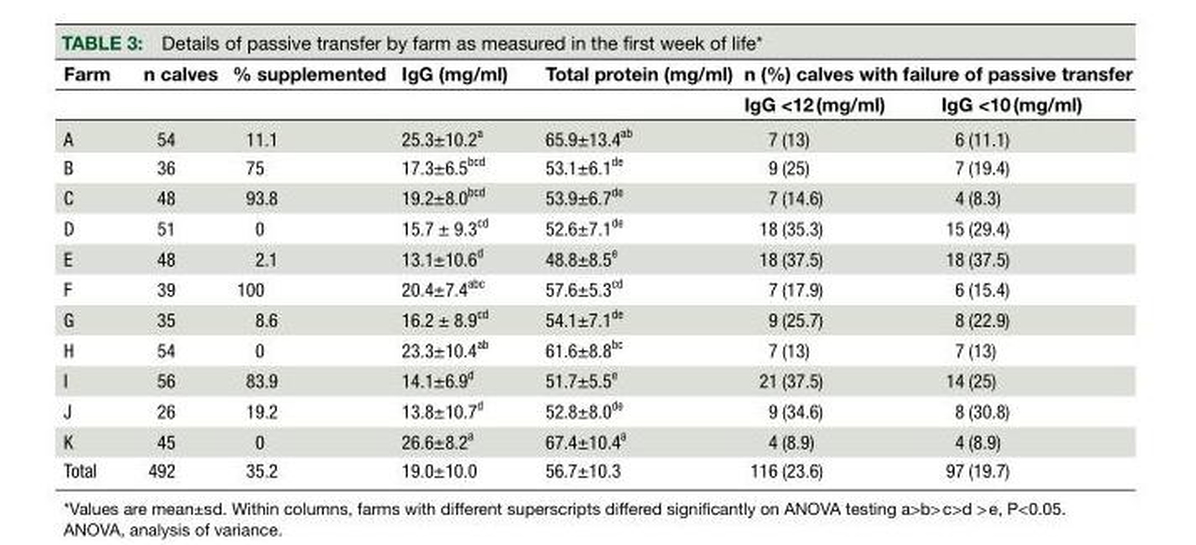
<table><thead><tr><td rowspan="2">Farm</td><td rowspan="2">n calves</td><td rowspan="2">% supplemented</td><td rowspan="2">IgG (mg/ml)</td><td rowspan="2">Total protein (mg/ml)</td><td colspan="2">n (%) calves with failure of passive transfer</td></tr><tr><td>IgG &lt;12 (mg/ml)</td><td>IgG &lt;10 (mg/ml)</td></tr></thead><tbody><tr><td>A</td><td>54</td><td>11.1</td><td>25.3±10.2<sup>a</sup></td><td>65.9±13.4<sup>ab</sup></td><td>7 (13)</td><td>6 (11.1)</td></tr><tr><td>B</td><td>36</td><td>75</td><td>17.3±6.5<sup>bcd</sup></td><td>53.1±6.1<sup>de</sup></td><td>9 (25)</td><td>7 (19.4)</td></tr><tr><td>C</td><td>48</td><td>93.8</td><td>19.2±8.0<sup>bcd</sup></td><td>53.9±6.7<sup>de</sup></td><td>7 (14.6)</td><td>4 (8.3)</td></tr><tr><td>D</td><td>51</td><td>0</td><td>15.7 ± 9.3<sup>cd</sup></td><td>52.6±7.1<sup>de</sup></td><td>18 (35.3)</td><td>15 (29.4)</td></tr><tr><td>E</td><td>48</td><td>2.1</td><td>13.1±10.6<sup>d</sup></td><td>48.8±8.5<sup>e</sup></td><td>18 (37.5)</td><td>18 (37.5)</td></tr><tr><td>F</td><td>39</td><td>100</td><td>20.4±7.4<sup>abc</sup></td><td>57.6±5.3<sup>cd</sup></td><td>7 (17.9)</td><td>6 (15.4)</td></tr><tr><td>G</td><td>35</td><td>8.6</td><td>16.2 ± 8.9<sup>cd</sup></td><td>54.1±7.1<sup>de</sup></td><td>9 (25.7)</td><td>8 (22.9)</td></tr><tr><td>H</td><td>54</td><td>0</td><td>23.3±10.4<sup>ab</sup></td><td>61.6±8.8<sup>bc</sup></td><td>7 (13)</td><td>7 (13)</td></tr><tr><td>I</td><td>56</td><td>83.9</td><td>14.1±6.9<sup>d</sup></td><td>51.7±5.5<sup>e</sup></td><td>21 (37.5)</td><td>14 (25)</td></tr><tr><td>J</td><td>26</td><td>19.2</td><td>13.8±10.7<sup>d</sup></td><td>52.8±8.0<sup>de</sup></td><td>9 (34.6)</td><td>8 (30.8)</td></tr><tr><td>K</td><td>45</td><td>0</td><td>26.6±8.2<sup>a</sup></td><td>67.4±10.4<sup>a</sup></td><td>4 (8.9)</td><td>4 (8.9)</td></tr><tr><td>Total</td><td>492</td><td>35.2</td><td>19.0±10.0</td><td>56.7±10.3</td><td>116 (23.6)</td><td>97 (19.7)</td></tr></tbody></table>